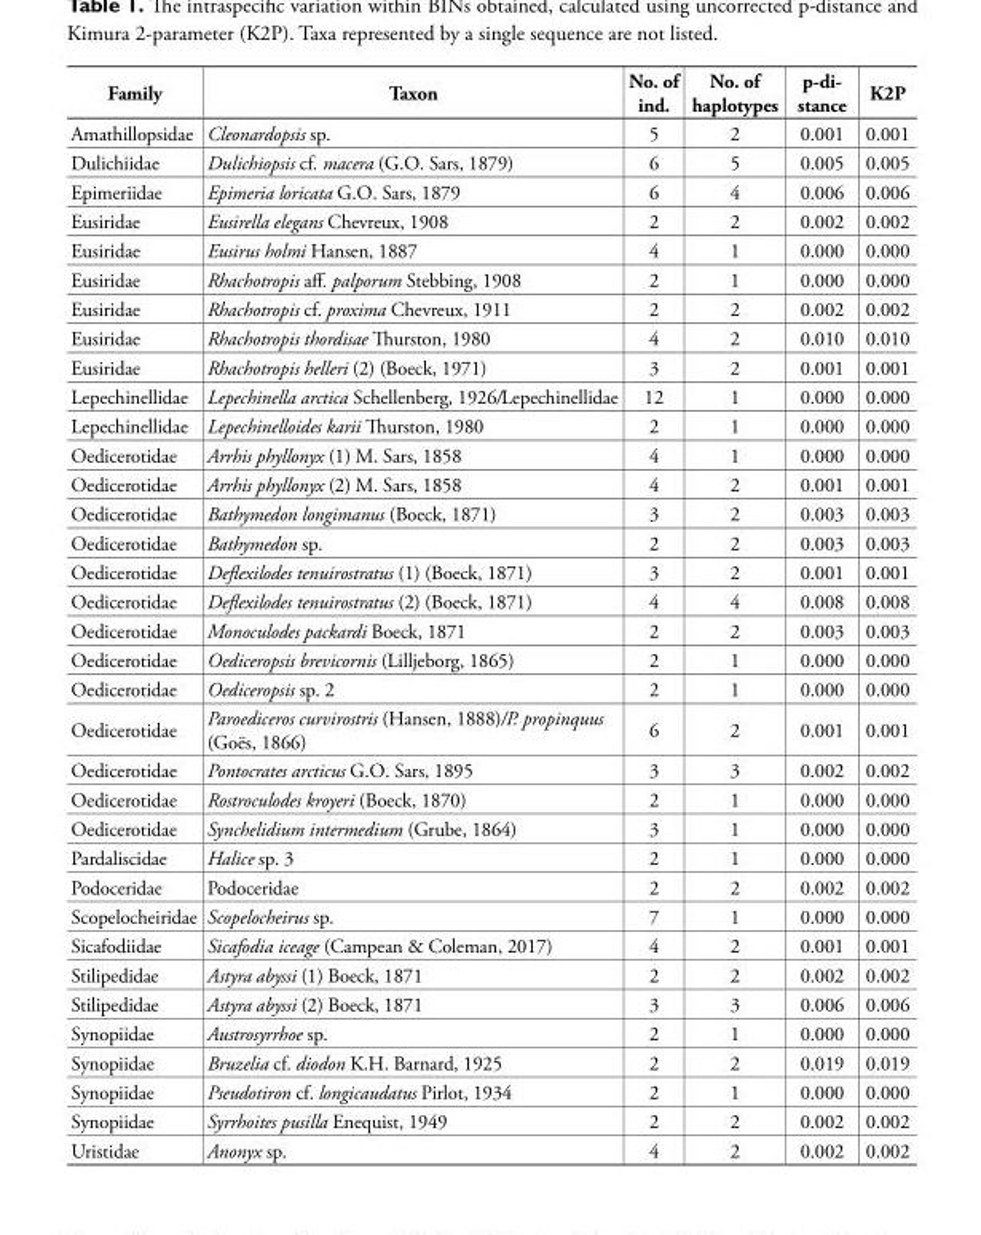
<table><thead><tr><td>Family</td><td>Taxon</td><td>No. of ind.</td><td>No. of haplotypes</td><td>p-di- stance</td><td>K2P</td></tr></thead><tbody><tr><td>Amathillopsidae</td><td>Cleonardopsis sp.</td><td>5</td><td>2</td><td>0.001</td><td>0.001</td></tr><tr><td>Dulichiidae</td><td>Dulichiopsis cf. macera (G.O. Sars, 1879)</td><td>6</td><td>5</td><td>0.005</td><td>0.005</td></tr><tr><td>Epimeriidae</td><td>Epimeria loricata G.O. Sars, 1879</td><td>6</td><td>4</td><td>0.006</td><td>0.006</td></tr><tr><td>Eusiridae</td><td>Eusirella elegans Chevreux, 1908</td><td>2</td><td>2</td><td>0.002</td><td>0.002</td></tr><tr><td>Eusiridae</td><td>Eusirus holmi Hansen, 1887</td><td>4</td><td>1</td><td>0.000</td><td>0.000</td></tr><tr><td>Eusiridae</td><td>Rhachotropis aff. palporum Stebbing, 1908</td><td>2</td><td>1</td><td>0.000</td><td>0.000</td></tr><tr><td>Eusiridae</td><td>Rhachotropis cf. proxima Chevreux, 1911</td><td>2</td><td>2</td><td>0.002</td><td>0.002</td></tr><tr><td>Eusiridae</td><td>Rhachotropis thordisae Thurston, 1980</td><td>4</td><td>2</td><td>0.010</td><td>0.010</td></tr><tr><td>Eusiridae</td><td>Rhachotropis helleri (2) (Boeck, 1971)</td><td>3</td><td>2</td><td>0.001</td><td>0.001</td></tr><tr><td>Lepechinellidae</td><td>Lepechinella arctica Schellenberg, 1926/Lepechinellidae</td><td>12</td><td>1</td><td>0.000</td><td>0.000</td></tr><tr><td>Lepechinellidae</td><td>Lepechinelloides karii Thurston, 1980</td><td>2</td><td>1</td><td>0.000</td><td>0.000</td></tr><tr><td>Oedicerotidae</td><td>Arrhis phyllonyx (1) M. Sars, 1858</td><td>4</td><td>1</td><td>0.000</td><td>0.000</td></tr><tr><td>Oedicerotidae</td><td>Arrhis phyllonyx (2) M. Sars, 1858</td><td>4</td><td>2</td><td>0.001</td><td>0.001</td></tr><tr><td>Oedicerotidae</td><td>Bathymedon longimanus (Boeck, 1871)</td><td>3</td><td>2</td><td>0.003</td><td>0.003</td></tr><tr><td>Oedicerotidae</td><td>Bathymedon sp.</td><td>2</td><td>2</td><td>0.003</td><td>0.003</td></tr><tr><td>Oedicerotidae</td><td>Deflexilodes tenuirostratus (1) (Boeck, 1871)</td><td>3</td><td>2</td><td>0.001</td><td>0.001</td></tr><tr><td>Oedicerotidae</td><td>Deflexilodes tenuirostratus (2) (Boeck, 1871)</td><td>4</td><td>4</td><td>0.008</td><td>0.008</td></tr><tr><td>Oedicerotidae</td><td>Monoculodes packardi Boeck, 1871</td><td>2</td><td>2</td><td>0.003</td><td>0.003</td></tr><tr><td>Oedicerotidae</td><td>Oediceropsis brevicornis (Lilljeborg, 1865)</td><td>2</td><td>1</td><td>0.000</td><td>0.000</td></tr><tr><td>Oedicerotidae</td><td>Oediceropsis sp. 2</td><td>2</td><td>1</td><td>0.000</td><td>0.000</td></tr><tr><td>Oedicerotidae</td><td>Paroediceros curvirostris (Hansen, 1888)/P. propinquus (Goës, 1866)</td><td>6</td><td>2</td><td>0.001</td><td>0.001</td></tr><tr><td>Oedicerotidae</td><td>Pontocrates arcticus G.O. Sars, 1895</td><td>3</td><td>3</td><td>0.002</td><td>0.002</td></tr><tr><td>Oedicerotidae</td><td>Rostroculodes kroyeri (Boeck, 1870)</td><td>2</td><td>1</td><td>0.000</td><td>0.000</td></tr><tr><td>Oedicerotidae</td><td>Synchelidium intermedium (Grube, 1864)</td><td>3</td><td>1</td><td>0.000</td><td>0.000</td></tr><tr><td>Pardaliscidae</td><td>Halice sp. 3</td><td>2</td><td>1</td><td>0.000</td><td>0.000</td></tr><tr><td>Podoceridae</td><td>Podoceridae</td><td>2</td><td>2</td><td>0.002</td><td>0.002</td></tr><tr><td>Scopelocheiridae</td><td>Scopelocheirus sp.</td><td>7</td><td>1</td><td>0.000</td><td>0.000</td></tr><tr><td>Sicafodiidae</td><td>Sicafodia iceage (Campean &amp; Coleman, 2017)</td><td>4</td><td>2</td><td>0.001</td><td>0.001</td></tr><tr><td>Stilipedidae</td><td>Astyra abyssi (1) Boeck, 1871</td><td>2</td><td>2</td><td>0.002</td><td>0.002</td></tr><tr><td>Stilipedidae</td><td>Astyra abyssi (2) Boeck, 1871</td><td>3</td><td>3</td><td>0.006</td><td>0.006</td></tr><tr><td>Synopiidae</td><td>Austrosyrrhoe sp.</td><td>2</td><td>1</td><td>0.000</td><td>0.000</td></tr><tr><td>Synopiidae</td><td>Bruzelia cf. diodon K.H. Barnard, 1925</td><td>2</td><td>2</td><td>0.019</td><td>0.019</td></tr><tr><td>Synopiidae</td><td>Pseudotiron cf. longicaudatus Pirlot, 1934</td><td>2</td><td>1</td><td>0.000</td><td>0.000</td></tr><tr><td>Synopiidae</td><td>Syrrhoites pusilla Enequist, 1949</td><td>2</td><td>2</td><td>0.002</td><td>0.002</td></tr><tr><td>Uristidae</td><td>Anonyx sp.</td><td>4</td><td>2</td><td>0.002</td><td>0.002</td></tr></tbody></table>